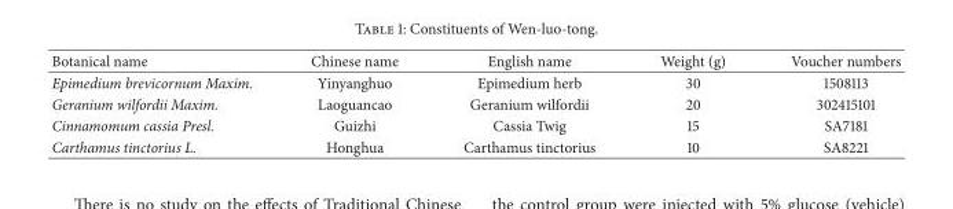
<table><thead><tr><td>Botanical name</td><td>Chinese name</td><td>English name</td><td>Weight (g)</td><td>Voucher numbers</td></tr></thead><tbody><tr><td>Epimedium brevicornum Maxim.</td><td>Yinyanghuo</td><td>Epimedium herb</td><td>30</td><td>1508113</td></tr><tr><td>Geranium wilfordii Maxim.</td><td>Laoguancao</td><td>Geranium wilfordii</td><td>20</td><td>302415101</td></tr><tr><td>Cinnamomum cassia Presl.</td><td>Guizhi</td><td>Cassia Twig</td><td>15</td><td>SA7181</td></tr><tr><td>Carthamus tinctorius L.</td><td>Honghua</td><td>Carthamus tinctorius</td><td>10</td><td>SA8221</td></tr></tbody></table>